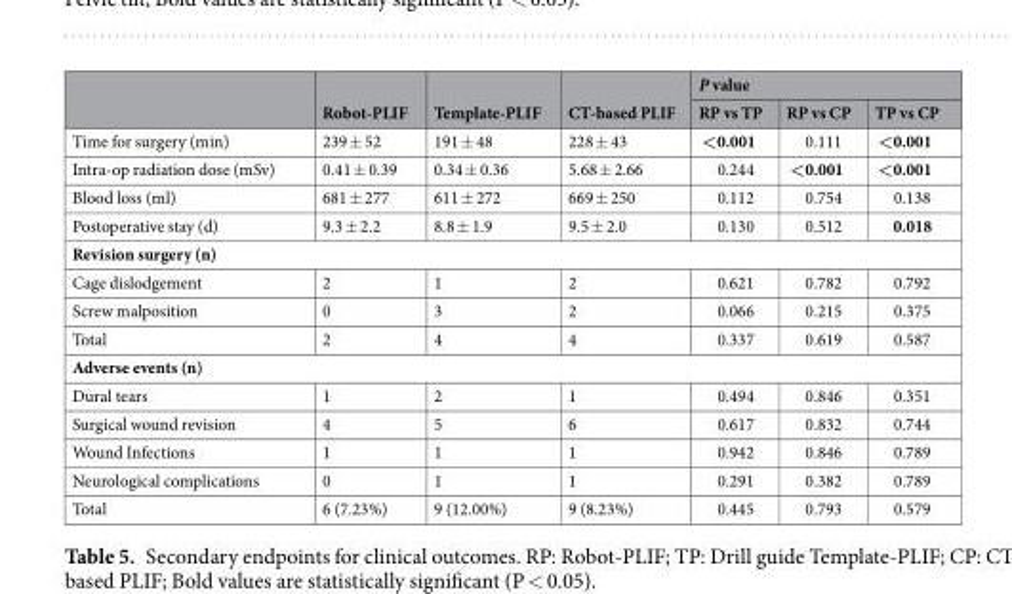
<table><thead><tr><td rowspan="2"></td><td rowspan="2">Robot-PLIF</td><td rowspan="2">Template-PLIF</td><td rowspan="2">CT-based PLIF</td><td colspan="3">P value</td></tr><tr><td>RP vs TP</td><td>RP vs CP</td><td>TP vs CP</td></tr></thead><tbody><tr><td>Time for surgery (min)</td><td>239 ± 52</td><td>191 ± 48</td><td>228 ± 43</td><td>&lt;0.001</td><td>0.111</td><td>&lt;0.001</td></tr><tr><td>Intra-op radiation dose (mSv)</td><td>0.41 ± 0.39</td><td>0.34 ± 0.36</td><td>5.68 ± 2.66</td><td>0.244</td><td>&lt;0.001</td><td>&lt;0.001</td></tr><tr><td>Blood loss (ml)</td><td>681 ± 277</td><td>611 ± 272</td><td>669 ± 250</td><td>0.112</td><td>0.754</td><td>0.138</td></tr><tr><td>Postoperative stay (d)</td><td>9.3 ± 2.2</td><td>8.8 ± 1.9</td><td>9.5 ± 2.0</td><td>0.130</td><td>0.512</td><td>0.018</td></tr><tr><td colspan="7">Revision surgery (n)</td></tr><tr><td>Cage dislodgement</td><td>2</td><td>1</td><td>2</td><td>0.621</td><td>0.782</td><td>0.792</td></tr><tr><td>Screw malposition</td><td>0</td><td>3</td><td>2</td><td>0.066</td><td>0.215</td><td>0.375</td></tr><tr><td>Total</td><td>2</td><td>4</td><td>4</td><td>0.337</td><td>0.619</td><td>0.587</td></tr><tr><td colspan="7">Adverse events (n)</td></tr><tr><td>Dural tears</td><td>1</td><td>2</td><td>1</td><td>0.494</td><td>0.846</td><td>0.351</td></tr><tr><td>Surgical wound revision</td><td>4</td><td>5</td><td>6</td><td>0.617</td><td>0.832</td><td>0.744</td></tr><tr><td>Wound Infections</td><td>1</td><td>1</td><td>1</td><td>0.942</td><td>0.846</td><td>0.789</td></tr><tr><td>Neurological complications</td><td>0</td><td>1</td><td>1</td><td>0.291</td><td>0.382</td><td>0.789</td></tr><tr><td>Total</td><td>6 (7.23%)</td><td>9 (12.00%)</td><td>9 (8.23%)</td><td>0.445</td><td>0.793</td><td>0.579</td></tr></tbody></table>